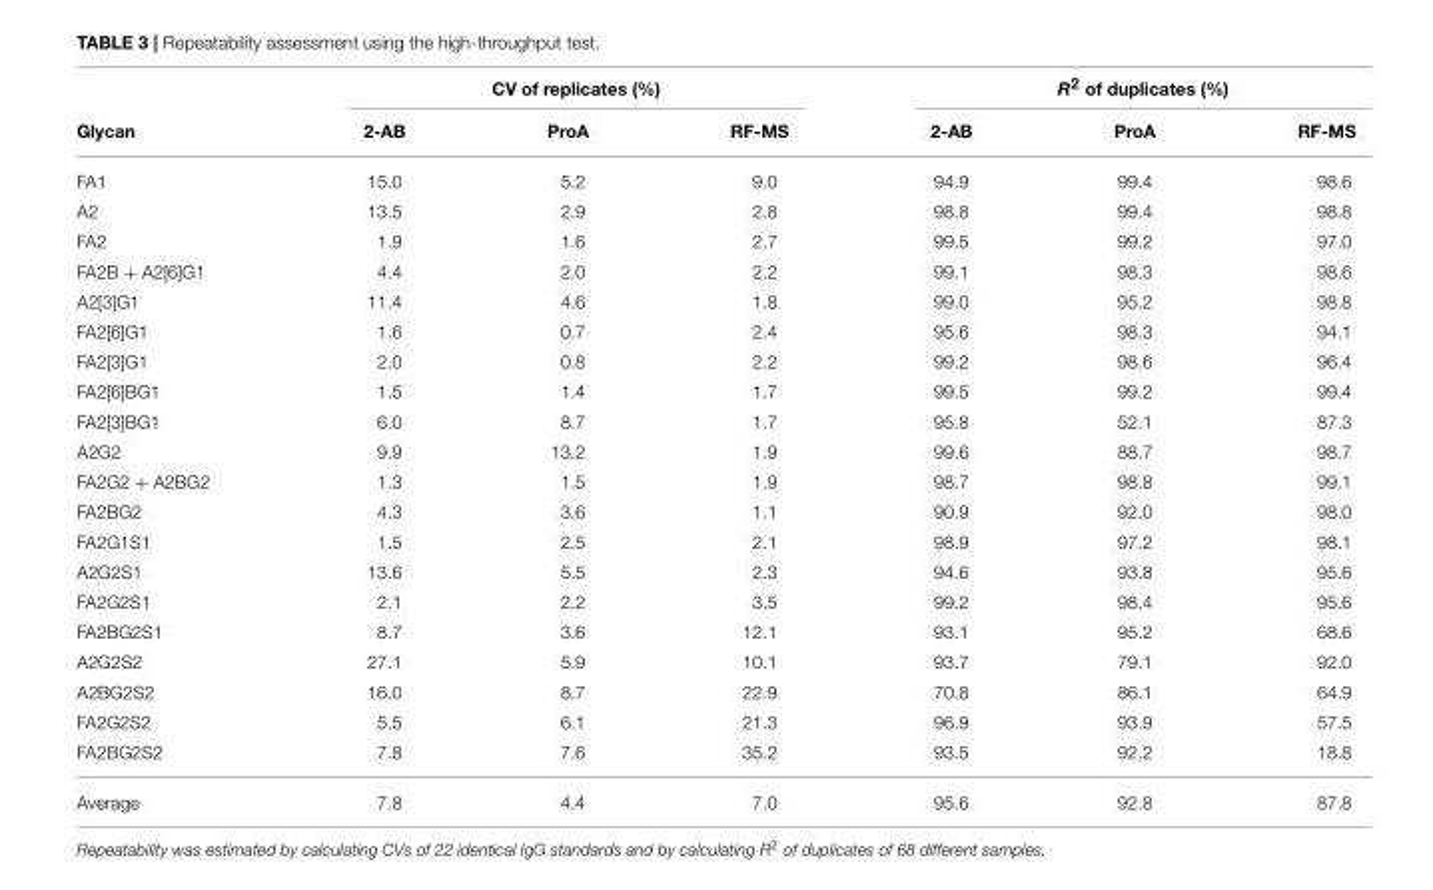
<table><thead><tr><td rowspan="2">Glycan</td><td colspan="3">CV of replicates (%)</td><td colspan="3">R<sup>2</sup> of duplicates (%)</td></tr><tr><td>2-AB</td><td>ProA</td><td>RF-MS</td><td>2-AB</td><td>ProA</td><td>RF-MS</td></tr></thead><tbody><tr><td>FA1</td><td>15.0</td><td>5.2</td><td>9.0</td><td>94.9</td><td>99.4</td><td>98.6</td></tr><tr><td>A2</td><td>13.5</td><td>2.9</td><td>2.8</td><td>98.8</td><td>99.4</td><td>98.8</td></tr><tr><td>FA2</td><td>1.9</td><td>1.6</td><td>2.7</td><td>99.5</td><td>99.2</td><td>97.0</td></tr><tr><td>FA2B + A2[6]G1</td><td>4.4</td><td>2.0</td><td>2.2</td><td>99.1</td><td>98.3</td><td>98.6</td></tr><tr><td>A2[3]G1</td><td>11.4</td><td>4.6</td><td>1.8</td><td>99.0</td><td>95.2</td><td>98.8</td></tr><tr><td>FA2[6]G1</td><td>1.6</td><td>0.7</td><td>2.4</td><td>95.6</td><td>98.3</td><td>94.1</td></tr><tr><td>FA2[3]G1</td><td>2.0</td><td>0.8</td><td>2.2</td><td>99.2</td><td>98.6</td><td>96.4</td></tr><tr><td>FA2[6]BG1</td><td>1.5</td><td>1.4</td><td>1.7</td><td>99.5</td><td>99.2</td><td>99.4</td></tr><tr><td>FA2[3]BG1</td><td>6.0</td><td>8.7</td><td>1.7</td><td>95.8</td><td>52.1</td><td>87.3</td></tr><tr><td>A2G2</td><td>9.9</td><td>13.2</td><td>1.9</td><td>99.6</td><td>88.7</td><td>98.7</td></tr><tr><td>FA2G2 + A2BG2</td><td>1.3</td><td>1.5</td><td>1.9</td><td>98.7</td><td>98.8</td><td>99.1</td></tr><tr><td>FA2BG2</td><td>4.3</td><td>3.6</td><td>1.1</td><td>90.9</td><td>92.0</td><td>98.0</td></tr><tr><td>FA2G1S1</td><td>1.5</td><td>2.5</td><td>2.1</td><td>98.9</td><td>97.2</td><td>98.1</td></tr><tr><td>A2G2S1</td><td>13.6</td><td>5.5</td><td>2.3</td><td>94.6</td><td>93.8</td><td>95.6</td></tr><tr><td>FA2G2S1</td><td>2.1</td><td>2.2</td><td>3.5</td><td>99.2</td><td>98.4</td><td>95.6</td></tr><tr><td>FA2BG2S1</td><td>8.7</td><td>3.6</td><td>12.1</td><td>93.1</td><td>95.2</td><td>68.6</td></tr><tr><td>A2G2S2</td><td>27.1</td><td>5.9</td><td>10.1</td><td>93.7</td><td>79.1</td><td>92.0</td></tr><tr><td>A2BG2S2</td><td>16.0</td><td>8.7</td><td>22.9</td><td>70.8</td><td>86.1</td><td>64.9</td></tr><tr><td>FA2G2S2</td><td>5.5</td><td>6.1</td><td>21.3</td><td>96.9</td><td>93.9</td><td>57.5</td></tr><tr><td>FA2BG2S2</td><td>7.8</td><td>7.6</td><td>35.2</td><td>93.5</td><td>92.2</td><td>18.8</td></tr><tr><td>Average</td><td>7.8</td><td>4.4</td><td>7.0</td><td>95.6</td><td>92.8</td><td>87.8</td></tr></tbody></table>